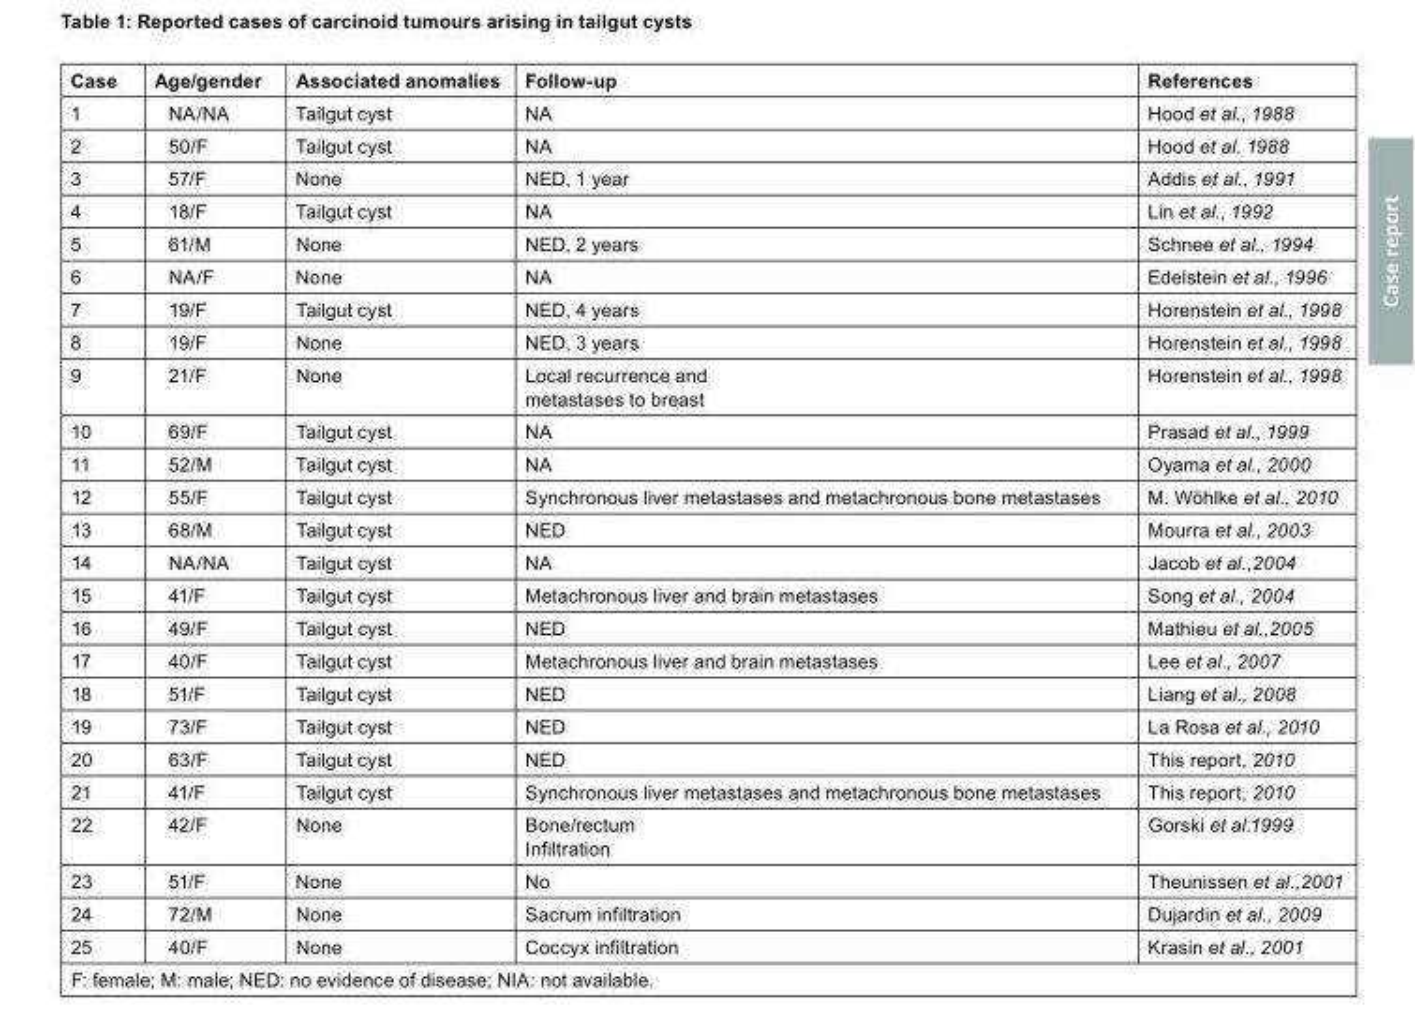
<table><thead><tr><td>Case</td><td>Age/gender</td><td>Associated anomalies</td><td>Follow-up</td><td>References</td></tr></thead><tbody><tr><td>1</td><td>NA/NA</td><td>Tailgut cyst</td><td>NA</td><td>Hood et al., 1988</td></tr><tr><td>2</td><td>50/F</td><td>Tailgut cyst</td><td>NA</td><td>Hood et al. 1988</td></tr><tr><td>3</td><td>57/F</td><td>None</td><td>NED, 1 year</td><td>Addis et al., 1991</td></tr><tr><td>4</td><td>18/F</td><td>Tailgut cyst</td><td>NA</td><td>Lin et al., 1992</td></tr><tr><td>5</td><td>61/M</td><td>None</td><td>NED, 2 years</td><td>Schnee et al., 1994</td></tr><tr><td>6</td><td>NA/F</td><td>None</td><td>NA</td><td>Edelstein et al., 1996</td></tr><tr><td>7</td><td>19/F</td><td>Tailgut cyst</td><td>NED, 4 years</td><td>Horenstein et al., 1998</td></tr><tr><td>8</td><td>19/F</td><td>None</td><td>NED, 3 years</td><td>Horenstein et al., 1998</td></tr><tr><td>9</td><td>21/F</td><td>None</td><td>Local recurrence and metastases to breast</td><td>Horenstein et al., 1998</td></tr><tr><td>10</td><td>69/F</td><td>Tailgut cyst</td><td>NA</td><td>Prasad et al., 1999</td></tr><tr><td>11</td><td>52/M</td><td>Tailgut cyst</td><td>NA</td><td>Oyama et al., 2000</td></tr><tr><td>12</td><td>55/F</td><td>Tailgut cyst</td><td>Synchronous liver metastases and metachronous bone metastases</td><td>M. Wöhlke et al., 2010</td></tr><tr><td>13</td><td>68/M</td><td>Tailgut cyst</td><td>NED</td><td>Mourra et al., 2003</td></tr><tr><td>14</td><td>NA/NA</td><td>Tailgut cyst</td><td>NA</td><td>Jacob et al.,2004</td></tr><tr><td>15</td><td>41/F</td><td>Tailgut cyst</td><td>Metachronous liver and brain metastases</td><td>Song et al., 2004</td></tr><tr><td>16</td><td>49/F</td><td>Tailgut cyst</td><td>NED</td><td>Mathieu et al.,2005</td></tr><tr><td>17</td><td>40/F</td><td>Tailgut cyst</td><td>Metachronous liver and brain metastases</td><td>Lee et al., 2007</td></tr><tr><td>18</td><td>51/F</td><td>Tailgut cyst</td><td>NED</td><td>Liang et al., 2008</td></tr><tr><td>19</td><td>73/F</td><td>Tailgut cyst</td><td>NED</td><td>La Rosa et al., 2010</td></tr><tr><td>20</td><td>63/F</td><td>Tailgut cyst</td><td>NED</td><td>This report, 2010</td></tr><tr><td>21</td><td>41/F</td><td>Tailgut cyst</td><td>Synchronous liver metastases and metachronous bone metastases</td><td>This report, 2010</td></tr><tr><td>22</td><td>42/F</td><td>None</td><td>Bone/rectum Infiltration</td><td>Gorski et al.1999</td></tr><tr><td>23</td><td>51/F</td><td>None</td><td>No</td><td>Theunissen et al.,2001</td></tr><tr><td>24</td><td>72/M</td><td>None</td><td>Sacrum infiltration</td><td>Dujardin et al., 2009</td></tr><tr><td>25</td><td>40/F</td><td>None</td><td>Coccyx infiltration</td><td>Krasin et al., 2001</td></tr></tbody></table>